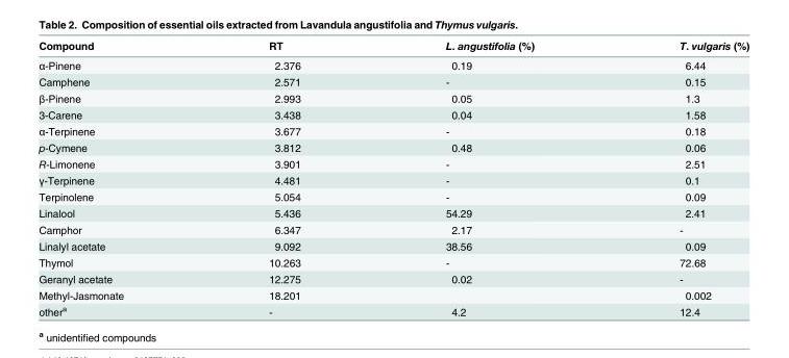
<table><thead><tr><td>Compound</td><td>RT</td><td>L. angustifolia (%)</td><td>T. vulgaris (%)</td></tr></thead><tbody><tr><td>α-Pinene</td><td>2.376</td><td>0.19</td><td>6.44</td></tr><tr><td>Camphene</td><td>2.571</td><td>-</td><td>0.15</td></tr><tr><td>β-Pinene</td><td>2.993</td><td>0.05</td><td>1.3</td></tr><tr><td>3-Carene</td><td>3.438</td><td>0.04</td><td>1.58</td></tr><tr><td>α-Terpinene</td><td>3.677</td><td>-</td><td>0.18</td></tr><tr><td>p-Cymene</td><td>3.812</td><td>0.48</td><td>0.06</td></tr><tr><td>R-Limonene</td><td>3.901</td><td>-</td><td>2.51</td></tr><tr><td>γ-Terpinene</td><td>4.481</td><td>-</td><td>0.1</td></tr><tr><td>Terpinolene</td><td>5.054</td><td>-</td><td>0.09</td></tr><tr><td>Linalool</td><td>5.436</td><td>54.29</td><td>2.41</td></tr><tr><td>Camphor</td><td>6.347</td><td>2.17</td><td>-</td></tr><tr><td>Linalyl acetate</td><td>9.092</td><td>38.56</td><td>0.09</td></tr><tr><td>Thymol</td><td>10.263</td><td>-</td><td>72.68</td></tr><tr><td>Geranyl acetate</td><td>12.275</td><td>0.02</td><td>-</td></tr><tr><td>Methyl-Jasmonate</td><td>18.201</td><td></td><td>0.002</td></tr><tr><td>other<sup>a</sup></td><td>-</td><td>4.2</td><td>12.4</td></tr></tbody></table>